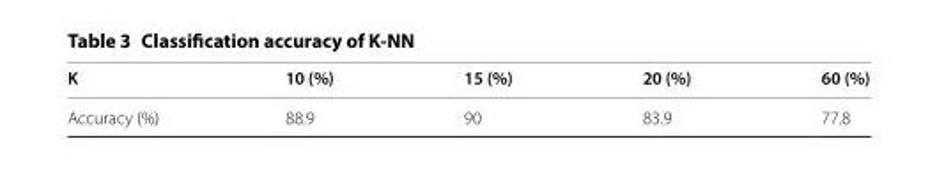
<table><thead><tr><td>K</td><td>10 (%)</td><td>15 (%)</td><td>20 (%)</td><td>60 (%)</td></tr></thead><tbody><tr><td>Accuracy (%)</td><td>88.9</td><td>90</td><td>83.9</td><td>77.8</td></tr></tbody></table>